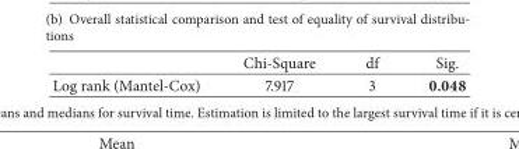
<table><thead><tr><td></td><td>Chi-Square</td><td>df</td><td>Sig.</td></tr></thead><tbody><tr><td>Log rank (Mantel-Cox)</td><td>7.917</td><td>3</td><td>0.048</td></tr></tbody></table>